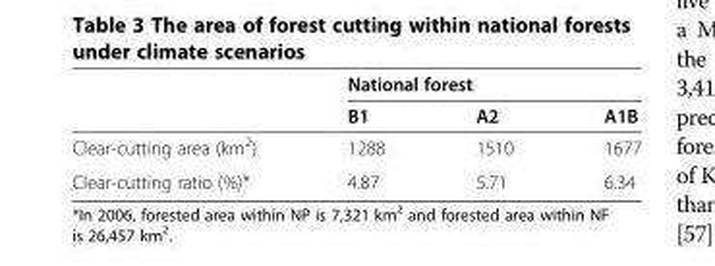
<table><thead><tr><td rowspan="2"></td><td colspan="3">National forest</td></tr><tr><td>B1</td><td>A2</td><td>A1B</td></tr></thead><tbody><tr><td>Clear-cutting area (km<sup>2</sup>)</td><td>1288</td><td>1510</td><td>1677</td></tr><tr><td>Clear-cutting ratio (%)*</td><td>4.87</td><td>5.71</td><td>6.34</td></tr></tbody></table>